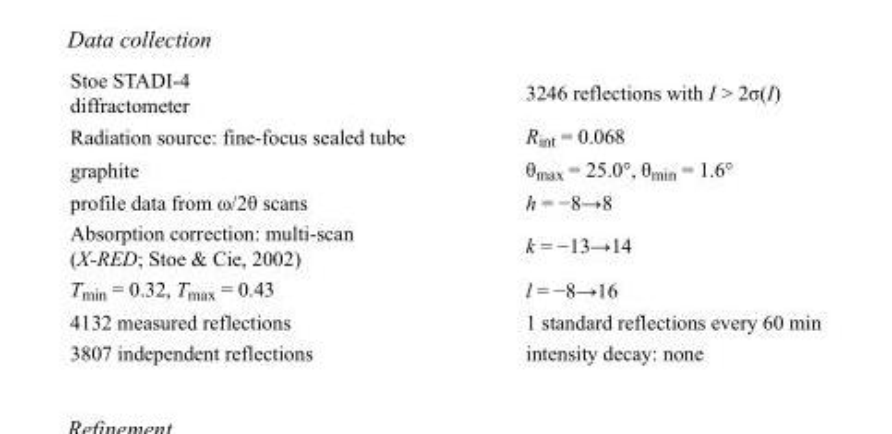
<table><tbody><tr><td>Stoe STADI-4 diffractometer</td><td>3246 reflections with I &gt; 2σ(I)</td></tr><tr><td>Radiation source: fine-focus sealed tube</td><td>R<sub>int</sub> = 0.068</td></tr><tr><td>graphite</td><td>θ<sub>max</sub> = 25.0°, θ<sub>min</sub> = 1.6°</td></tr><tr><td>profile data from ω/2θ scans</td><td>h = −8→8</td></tr><tr><td>Absorption correction: multi-scan (X-RED; Stoe &amp; Cie, 2002)</td><td>k = −13→14</td></tr><tr><td>T<sub>min</sub> = 0.32, T<sub>max</sub> = 0.43</td><td>l = −8→16</td></tr><tr><td>4132 measured reflections</td><td>1 standard reflections every 60 min</td></tr><tr><td>3807 independent reflections</td><td>intensity decay: none</td></tr></tbody></table>